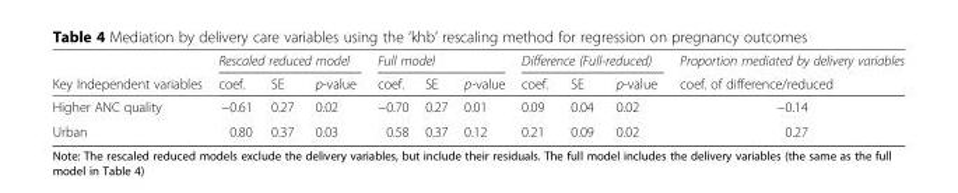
<table><thead><tr><td rowspan="2">Key Independent variables</td><td colspan="3">Rescaled reduced model</td><td colspan="3">Full model</td><td colspan="3">Difference (Full-reduced)</td><td rowspan="2">Proportion mediated by delivery variables coef. of difference/reduced</td></tr><tr><td>coef.</td><td>SE</td><td>p-value</td><td>coef.</td><td>SE</td><td>p-value</td><td>coef.</td><td>SE</td><td>p-value</td></tr></thead><tbody><tr><td>Higher ANC quality</td><td>−0.61</td><td>0.27</td><td>0.02</td><td>−0.70</td><td>0.27</td><td>0.01</td><td>0.09</td><td>0.04</td><td>0.02</td><td>−0.14</td></tr><tr><td>Urban</td><td>0.80</td><td>0.37</td><td>0.03</td><td>0.58</td><td>0.37</td><td>0.12</td><td>0.21</td><td>0.09</td><td>0.02</td><td>0.27</td></tr></tbody></table>